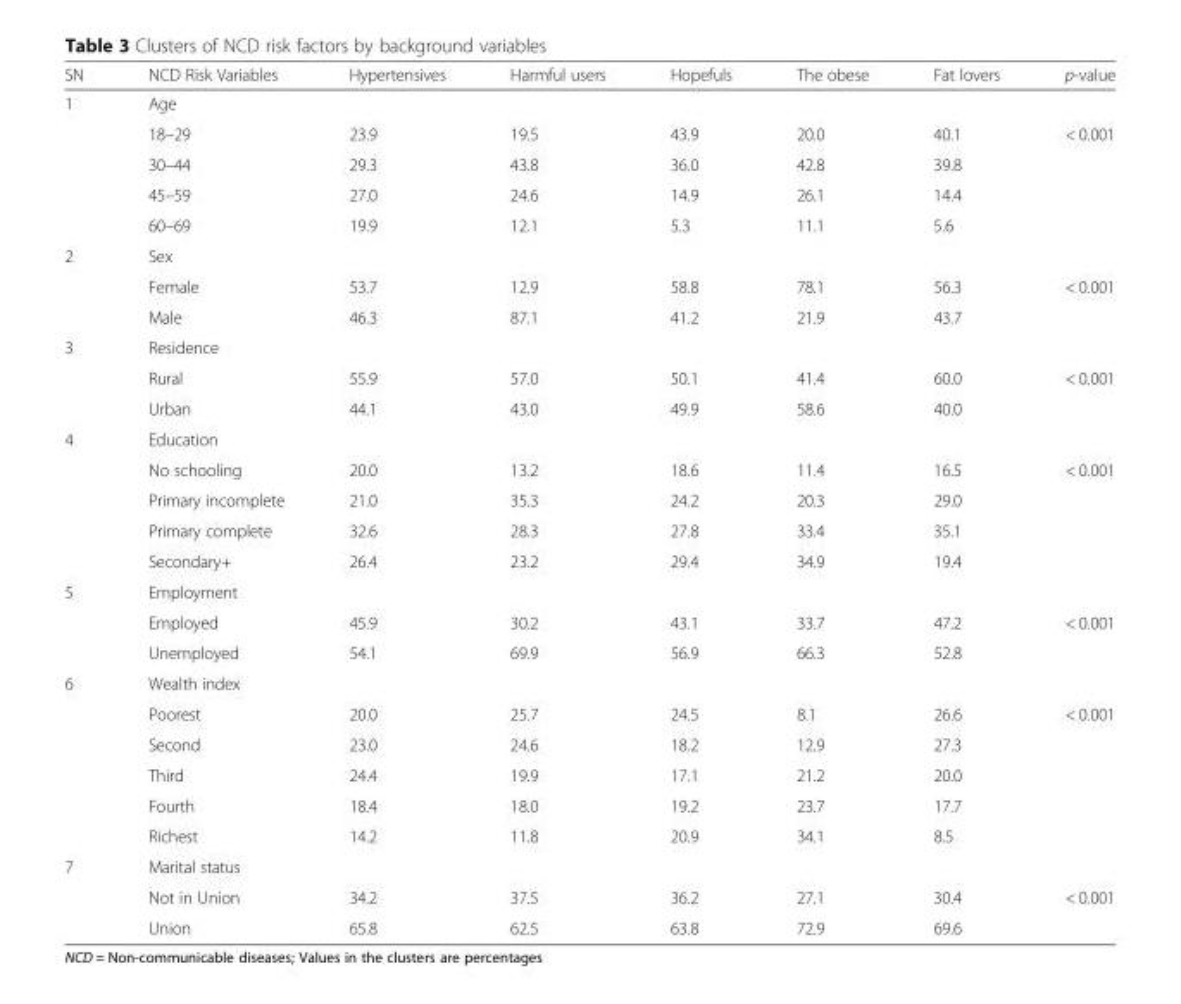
<table><thead><tr><td>SN</td><td>NCD Risk Variables</td><td>Hypertensives</td><td>Harmful users</td><td>Hopefuls</td><td>The obese</td><td>Fat lovers</td><td>p-value</td></tr></thead><tbody><tr><td rowspan="5">1</td><td colspan="7">Age</td></tr><tr><td>18–29</td><td>23.9</td><td>19.5</td><td>43.9</td><td>20.0</td><td>40.1</td><td rowspan="4">&lt; 0.001</td></tr><tr><td>30–44</td><td>29.3</td><td>43.8</td><td>36.0</td><td>42.8</td><td>39.8</td></tr><tr><td>45–59</td><td>27.0</td><td>24.6</td><td>14.9</td><td>26.1</td><td>14.4</td></tr><tr><td>60–69</td><td>19.9</td><td>12.1</td><td>5.3</td><td>11.1</td><td>5.6</td></tr><tr><td rowspan="3">2</td><td colspan="7">Sex</td></tr><tr><td>Female</td><td>53.7</td><td>12.9</td><td>58.8</td><td>78.1</td><td>56.3</td><td rowspan="2">&lt; 0.001</td></tr><tr><td>Male</td><td>46.3</td><td>87.1</td><td>41.2</td><td>21.9</td><td>43.7</td></tr><tr><td rowspan="3">3</td><td colspan="7">Residence</td></tr><tr><td>Rural</td><td>55.9</td><td>57.0</td><td>50.1</td><td>41.4</td><td>60.0</td><td rowspan="2">&lt; 0.001</td></tr><tr><td>Urban</td><td>44.1</td><td>43.0</td><td>49.9</td><td>58.6</td><td>40.0</td></tr><tr><td rowspan="5">4</td><td colspan="7">Education</td></tr><tr><td>No schooling</td><td>20.0</td><td>13.2</td><td>18.6</td><td>11.4</td><td>16.5</td><td rowspan="4">&lt; 0.001</td></tr><tr><td>Primary incomplete</td><td>21.0</td><td>35.3</td><td>24.2</td><td>20.3</td><td>29.0</td></tr><tr><td>Primary complete</td><td>32.6</td><td>28.3</td><td>27.8</td><td>33.4</td><td>35.1</td></tr><tr><td>Secondary+</td><td>26.4</td><td>23.2</td><td>29.4</td><td>34.9</td><td>19.4</td></tr><tr><td rowspan="3">5</td><td colspan="7">Employment</td></tr><tr><td>Employed</td><td>45.9</td><td>30.2</td><td>43.1</td><td>33.7</td><td>47.2</td><td rowspan="2">&lt; 0.001</td></tr><tr><td>Unemployed</td><td>54.1</td><td>69.9</td><td>56.9</td><td>66.3</td><td>52.8</td></tr><tr><td rowspan="6">6</td><td colspan="7">Wealth index</td></tr><tr><td>Poorest</td><td>20.0</td><td>25.7</td><td>24.5</td><td>8.1</td><td>26.6</td><td rowspan="5">&lt; 0.001</td></tr><tr><td>Second</td><td>23.0</td><td>24.6</td><td>18.2</td><td>12.9</td><td>27.3</td></tr><tr><td>Third</td><td>24.4</td><td>19.9</td><td>17.1</td><td>21.2</td><td>20.0</td></tr><tr><td>Fourth</td><td>18.4</td><td>18.0</td><td>19.2</td><td>23.7</td><td>17.7</td></tr><tr><td>Richest</td><td>14.2</td><td>11.8</td><td>20.9</td><td>34.1</td><td>8.5</td></tr><tr><td rowspan="3">7</td><td colspan="7">Marital status</td></tr><tr><td>Not in Union</td><td>34.2</td><td>37.5</td><td>36.2</td><td>27.1</td><td>30.4</td><td rowspan="2">&lt; 0.001</td></tr><tr><td>Union</td><td>65.8</td><td>62.5</td><td>63.8</td><td>72.9</td><td>69.6</td></tr></tbody></table>